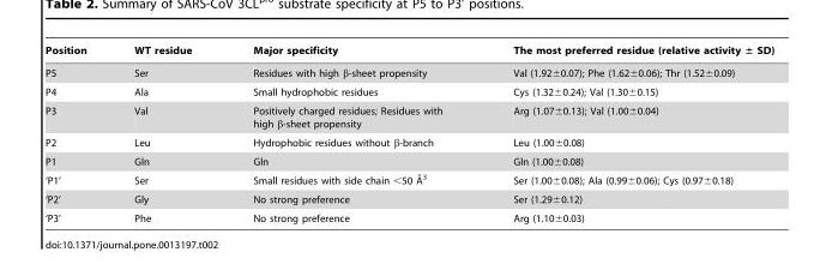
<table><thead><tr><td>Position</td><td>WT residue</td><td>Major specificity</td><td>The most preferred residue (relative activity ± SD)</td></tr></thead><tbody><tr><td>P5</td><td>Ser</td><td>Residues with high β-sheet propensity</td><td>Val (1.92±0.07); Phe (1.62±0.06); Thr (1.52±0.09)</td></tr><tr><td>P4</td><td>Ala</td><td>Small hydrophobic residues</td><td>Cys (1.32±0.24); Val (1.30±0.15)</td></tr><tr><td>P3</td><td>Val</td><td>Positively charged residues; Residues with high β-sheet propensity</td><td>Arg (1.07±0.13); Val (1.00±0.04)</td></tr><tr><td>P2</td><td>Leu</td><td>Hydrophobic residues without β-branch</td><td>Leu (1.00±0.08)</td></tr><tr><td>P1</td><td>Gln</td><td>Gln</td><td>Gln (1.00±0.08)</td></tr><tr><td>‘P1’</td><td>Ser</td><td>Small residues with side chain ,50 A˚3</td><td>Ser (1.00±0.08); Ala (0.99±0.06); Cys (0.97±0.18)</td></tr><tr><td>‘P2’</td><td>Gly</td><td>No strong preference</td><td>Ser (1.29±0.12)</td></tr><tr><td>‘P3’</td><td>Phe</td><td>No strong preference</td><td>Arg (1.10±0.03)</td></tr></tbody></table>